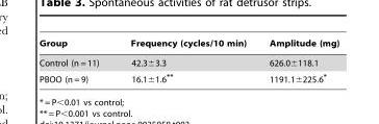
<table><thead><tr><td colspan="2">Group Frequency (cycles/10 min)</td><td rowspan="2">Amplitude (mg) 626.0±118.1</td></tr><tr><td>Control (n = 11)</td><td>42.3±3.3</td></tr></thead><tbody><tr><td>PBOO (n = 9)</td><td>16.1±1.6**</td><td>1191.1±225.6*</td></tr></tbody></table>